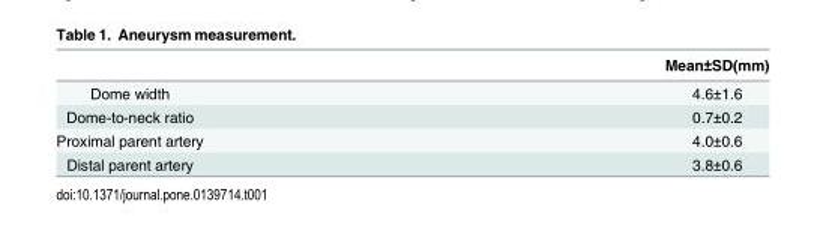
<table><thead><tr><td></td><td>Mean±SD(mm)</td></tr></thead><tbody><tr><td>Dome width</td><td>4.6±1.6</td></tr><tr><td>Dome-to-neck ratio</td><td>0.7±0.2</td></tr><tr><td>Proximal parent artery</td><td>4.0±0.6</td></tr><tr><td>Distal parent artery</td><td>3.8±0.6</td></tr></tbody></table>